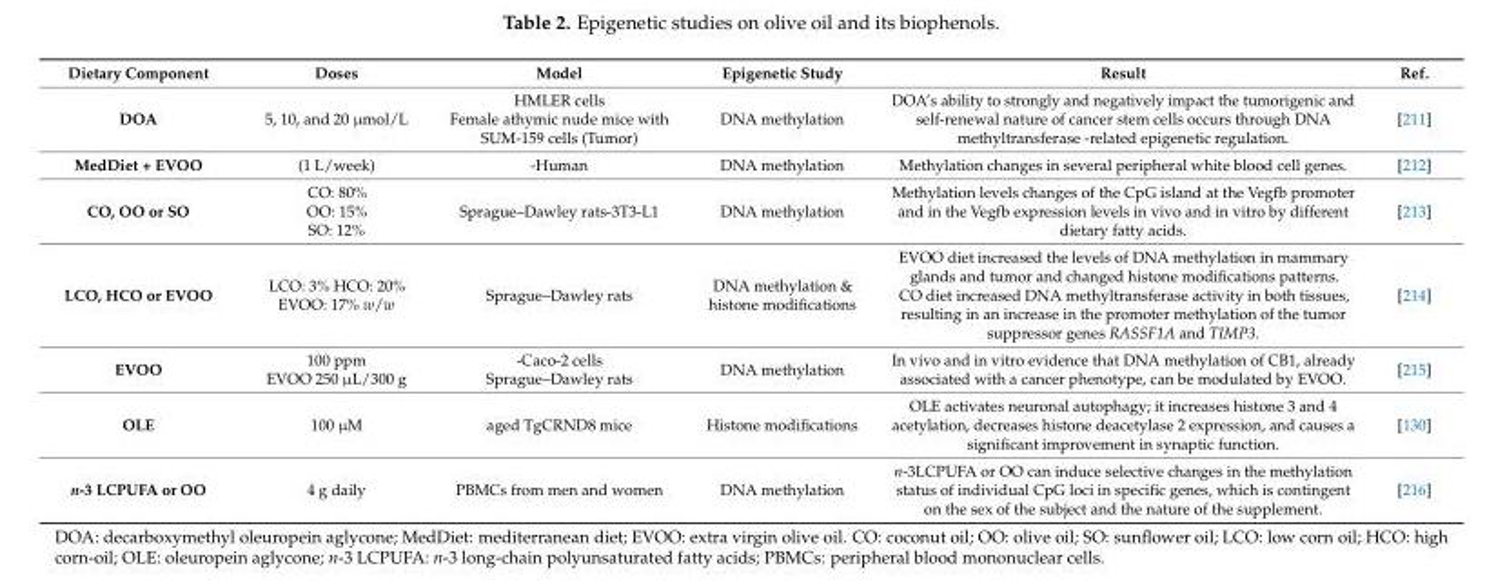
<table><thead><tr><td>Dietary Component</td><td>Doses</td><td>Model</td><td>Epigenetic Study</td><td>Result</td><td>Ref.</td></tr></thead><tbody><tr><td>DOA</td><td>5, 10, and 20 µmol/L</td><td>HMLER cells Female athymic nude mice with SUM-159 cells (Tumor)</td><td>DNA methylation</td><td>DOA’s ability to strongly and negatively impact the tumorigenic and self-renewal nature of cancer stem cells occurs through DNA methyltransferase -related epigenetic regulation.</td><td>[211]</td></tr><tr><td>MedDiet + EVOO</td><td>(1 L/week)</td><td>-Human</td><td>DNA methylation</td><td>Methylation changes in several peripheral white blood cell genes.</td><td>[212]</td></tr><tr><td>CO, OO or SO</td><td>CO: 80% OO: 15% SO: 12%</td><td>Sprague–Dawley rats-3T3-L1</td><td>DNA methylation</td><td>Methylation levels changes of the CpG island at the Vegfb promoter and in the Vegfb expression levels in vivo and in vitro by different dietary fatty acids.</td><td>[213]</td></tr><tr><td>LCO, HCO or EVOO</td><td>LCO: 3% HCO: 20% EVOO: 17% w/w</td><td>Sprague–Dawley rats</td><td>DNA methylation &amp; histone modifications</td><td>EVOO diet increased the levels of DNA methylation in mammary glands and tumor and changed histone modifications patterns. CO diet increased DNA methyltransferase activity in both tissues, resulting in an increase in the promoter methylation of the tumor suppressor genes RASSF1A and TIMP3.</td><td>[214]</td></tr><tr><td>EVOO</td><td>100 ppm EVOO 250 µL/300 g</td><td>-Caco-2 cells Sprague–Dawley rats</td><td>DNA methylation</td><td>In vivo and in vitro evidence that DNA methylation of CB1, already associated with a cancer phenotype, can be modulated by EVOO.</td><td>[215]</td></tr><tr><td>OLE</td><td>100 µM</td><td>aged TgCRND8 mice</td><td>Histone modifications</td><td>OLE activates neuronal autophagy; it increases histone 3 and 4 acetylation, decreases histone deacetylase 2 expression, and causes a significant improvement in synaptic function.</td><td>[130]</td></tr><tr><td>n-3 LCPUFA or OO</td><td>4 g daily</td><td>PBMCs from men and women</td><td>DNA methylation</td><td>n-3LCPUFA or OO can induce selective changes in the methylation status of individual CpG loci in specific genes, which is contingent on the sex of the subject and the nature of the supplement.</td><td>[216]</td></tr></tbody></table>